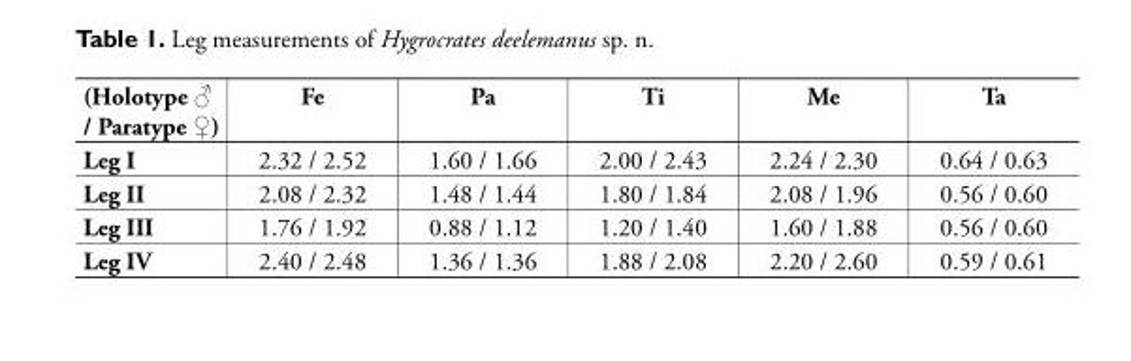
<table><thead><tr><td>(Holotype ♂ / Paratype ♀)</td><td>Fe</td><td>Pa</td><td>Ti</td><td>Me</td><td>Ta</td></tr></thead><tbody><tr><td>Leg I</td><td>2.32 / 2.52</td><td>1.60 / 1.66</td><td>2.00 / 2.43</td><td>2.24 / 2.30</td><td>0.64 / 0.63</td></tr><tr><td>Leg II</td><td>2.08 / 2.32</td><td>1.48 / 1.44</td><td>1.80 / 1.84</td><td>2.08 / 1.96</td><td>0.56 / 0.60</td></tr><tr><td>Leg III</td><td>1.76 / 1.92</td><td>0.88 / 1.12</td><td>1.20 / 1.40</td><td>1.60 / 1.88</td><td>0.56 / 0.60</td></tr><tr><td>Leg IV</td><td>2.40 / 2.48</td><td>1.36 / 1.36</td><td>1.88 / 2.08</td><td>2.20 / 2.60</td><td>0.59 / 0.61</td></tr></tbody></table>